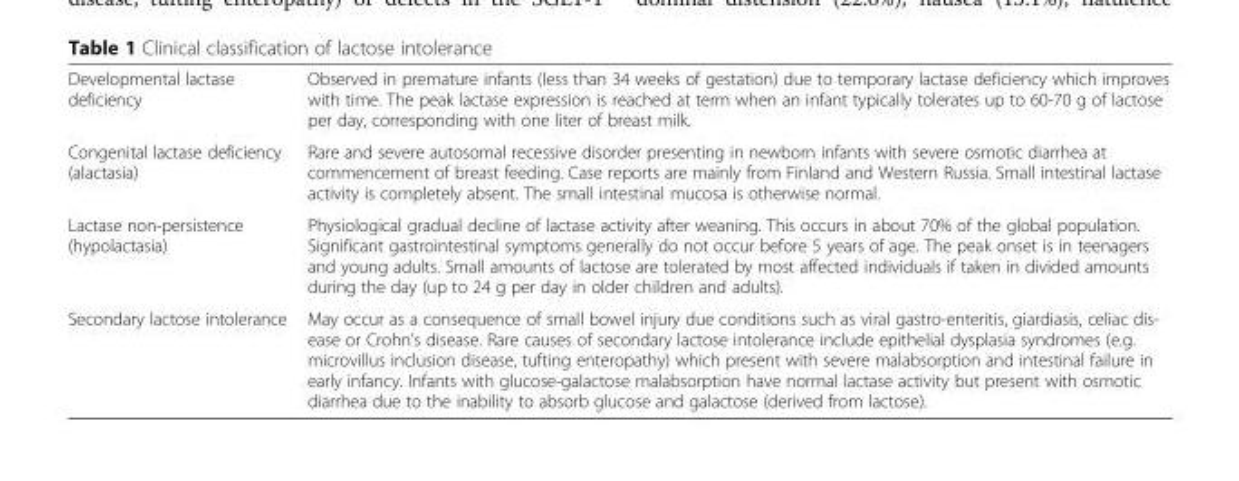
<table><tbody><tr><td>Developmental lactase deficiency</td><td>Observed in premature infants (less than 34 weeks of gestation) due to temporary lactase deficiency which improves with time. The peak lactase expression is reached at term when an infant typically tolerates up to 60-70 g of lactose per day, corresponding with one liter of breast milk.</td></tr><tr><td>Congenital lactase deficiency (alactasia)</td><td>Rare and severe autosomal recessive disorder presenting in newborn infants with severe osmotic diarrhea at commencement of breast feeding. Case reports are mainly from Finland and Western Russia. Small intestinal lactase activity is completely absent. The small intestinal mucosa is otherwise normal.</td></tr><tr><td>Lactase non-persistence (hypolactasia)</td><td>Physiological gradual decline of lactase activity after weaning. This occurs in about 70% of the global population. Significant gastrointestinal symptoms generally do not occur before 5 years of age. The peak onset is in teenagers and young adults. Small amounts of lactose are tolerated by most affected individuals if taken in divided amounts during the day (up to 24 g per day in older children and adults).</td></tr><tr><td>Secondary lactose intolerance</td><td>May occur as a consequence of small bowel injury due conditions such as viral gastro-enteritis, giardiasis, celiac dis- ease or Crohn’s disease. Rare causes of secondary lactose intolerance include epithelial dysplasia syndromes (e.g. microvillus inclusion disease, tufting enteropathy) which present with severe malabsorption and intestinal failure in early infancy. Infants with glucose-galactose malabsorption have normal lactase activity but present with osmotic diarrhea due to the inability to absorb glucose and galactose (derived from lactose).</td></tr></tbody></table>